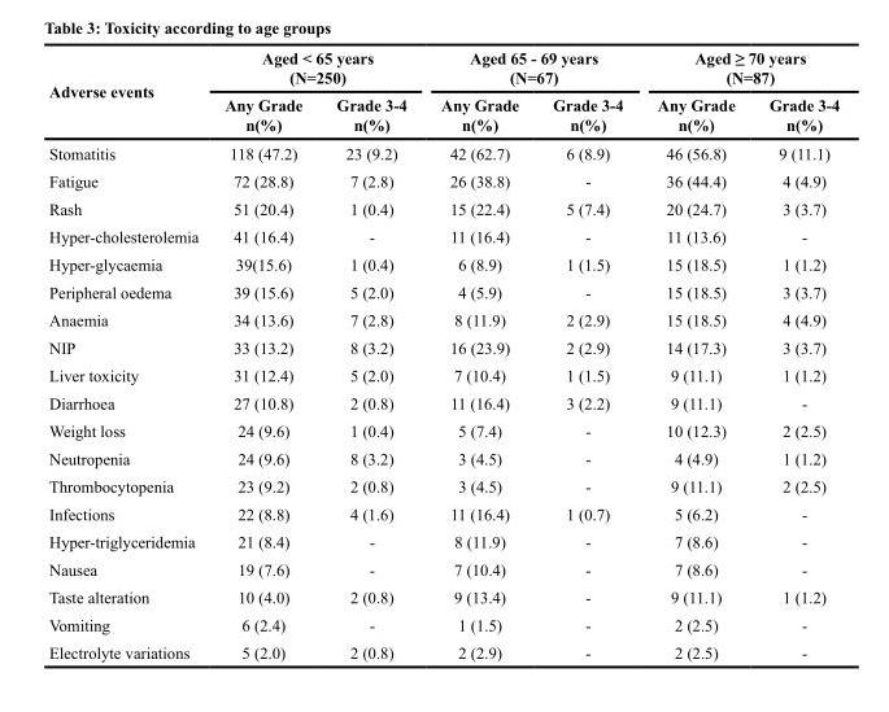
<table><thead><tr><td rowspan="2">Adverse events</td><td colspan="2">Aged &lt; 65 years (N=250)</td><td colspan="2">Aged 65 - 69 years (N=67)</td><td colspan="2">Aged ≥ 70 years (N=87)</td></tr><tr><td>Any Grade n(%)</td><td>Grade 3-4 n(%)</td><td>Any Grade n(%)</td><td>Grade 3-4 n(%)</td><td>Any Grade n(%)</td><td>Grade 3-4 n(%)</td></tr></thead><tbody><tr><td>Stomatitis</td><td>118 (47.2)</td><td>23 (9.2)</td><td>42 (62.7)</td><td>6 (8.9)</td><td>46 (56.8)</td><td>9 (11.1)</td></tr><tr><td>Fatigue</td><td>72 (28.8)</td><td>7 (2.8)</td><td>26 (38.8)</td><td>-</td><td>36 (44.4)</td><td>4 (4.9)</td></tr><tr><td>Rash</td><td>51 (20.4)</td><td>1 (0.4)</td><td>15 (22.4)</td><td>5 (7.4)</td><td>20 (24.7)</td><td>3 (3.7)</td></tr><tr><td>Hyper-cholesterolemia</td><td>41 (16.4)</td><td>-</td><td>11 (16.4)</td><td>-</td><td>11 (13.6)</td><td>-</td></tr><tr><td>Hyper-glycaemia</td><td>39(15.6)</td><td>1 (0.4)</td><td>6 (8.9)</td><td>1 (1.5)</td><td>15 (18.5)</td><td>1 (1.2)</td></tr><tr><td>Peripheral oedema</td><td>39 (15.6)</td><td>5 (2.0)</td><td>4 (5.9)</td><td>-</td><td>15 (18.5)</td><td>3 (3.7)</td></tr><tr><td>Anaemia</td><td>34 (13.6)</td><td>7 (2.8)</td><td>8 (11.9)</td><td>2 (2.9)</td><td>15 (18.5)</td><td>4 (4.9)</td></tr><tr><td>NIP</td><td>33 (13.2)</td><td>8 (3.2)</td><td>16 (23.9)</td><td>2 (2.9)</td><td>14 (17.3)</td><td>3 (3.7)</td></tr><tr><td>Liver toxicity</td><td>31 (12.4)</td><td>5 (2.0)</td><td>7 (10.4)</td><td>1 (1.5)</td><td>9 (11.1)</td><td>1 (1.2)</td></tr><tr><td>Diarrhoea</td><td>27 (10.8)</td><td>2 (0.8)</td><td>11 (16.4)</td><td>3 (2.2)</td><td>9 (11.1)</td><td>-</td></tr><tr><td>Weight loss</td><td>24 (9.6)</td><td>1 (0.4)</td><td>5 (7.4)</td><td>-</td><td>10 (12.3)</td><td>2 (2.5)</td></tr><tr><td>Neutropenia</td><td>24 (9.6)</td><td>8 (3.2)</td><td>3 (4.5)</td><td>-</td><td>4 (4.9)</td><td>1 (1.2)</td></tr><tr><td>Thrombocytopenia</td><td>23 (9.2)</td><td>2 (0.8)</td><td>3 (4.5)</td><td>-</td><td>9 (11.1)</td><td>2 (2.5)</td></tr><tr><td>Infections</td><td>22 (8.8)</td><td>4 (1.6)</td><td>11 (16.4)</td><td>1 (0.7)</td><td>5 (6.2)</td><td>-</td></tr><tr><td>Hyper-triglyceridemia</td><td>21 (8.4)</td><td>-</td><td>8 (11.9)</td><td>-</td><td>7 (8.6)</td><td>-</td></tr><tr><td>Nausea</td><td>19 (7.6)</td><td>-</td><td>7 (10.4)</td><td>-</td><td>7 (8.6)</td><td>-</td></tr><tr><td>Taste alteration</td><td>10 (4.0)</td><td>2 (0.8)</td><td>9 (13.4)</td><td>-</td><td>9 (11.1)</td><td>1 (1.2)</td></tr><tr><td>Vomiting</td><td>6 (2.4)</td><td>-</td><td>1 (1.5)</td><td>-</td><td>2 (2.5)</td><td>-</td></tr><tr><td>Electrolyte variations</td><td>5 (2.0)</td><td>2 (0.8)</td><td>2 (2.9)</td><td>-</td><td>2 (2.5)</td><td>-</td></tr></tbody></table>